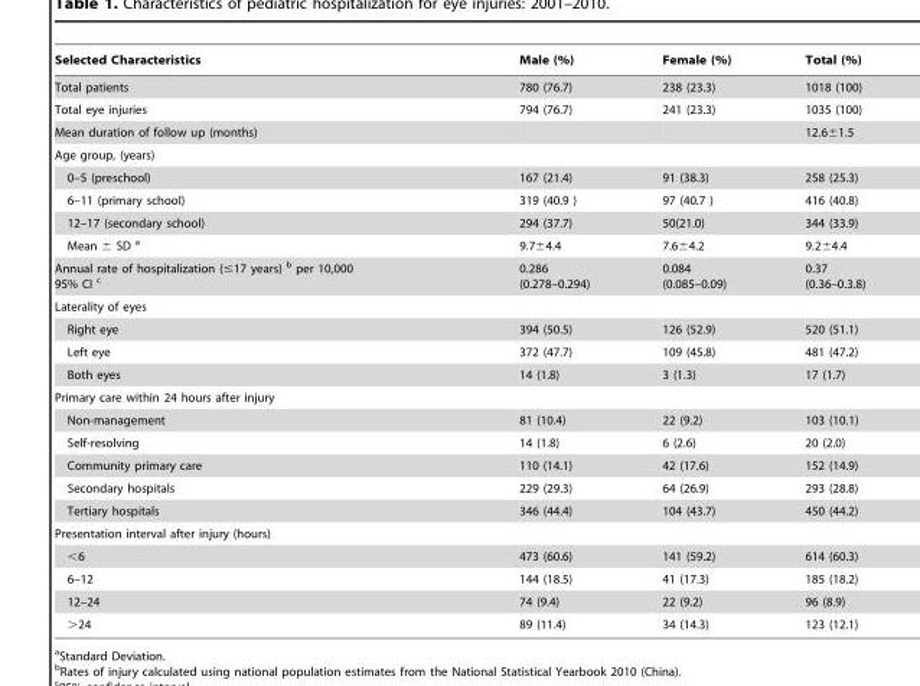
<table><thead><tr><td>Selected Characteristics</td><td>Male (%)</td><td>Female (%)</td><td>Total (%)</td></tr></thead><tbody><tr><td>Total patients</td><td>780 (76.7)</td><td>238 (23.3)</td><td>1018 (100)</td></tr><tr><td>Total eye injuries</td><td>794 (76.7)</td><td>241 (23.3)</td><td>1035 (100)</td></tr><tr><td>Mean duration of follow up (months)</td><td></td><td></td><td>12.6±1.5</td></tr><tr><td colspan="4">Age group, (years)</td></tr><tr><td>0–5 (preschool)</td><td>167 (21.4)</td><td>91 (38.3)</td><td>258 (25.3)</td></tr><tr><td>6–11 (primary school)</td><td>319 (40.9 )</td><td>97 (40.7 )</td><td>416 (40.8)</td></tr><tr><td>12–17 (secondary school)</td><td>294 (37.7)</td><td>50(21.0)</td><td>344 (33.9)</td></tr><tr><td>Mean ± SD a</td><td>9.7±4.4</td><td>7.6±4.2</td><td>9.2±4.4</td></tr><tr><td>Annual rate of hospitalization (≤17 years) b per 10,000 95% CI c</td><td>0.286 (0.278–0.294)</td><td>0.084 (0.085–0.09)</td><td>0.37 (0.36–0.3.8)</td></tr><tr><td colspan="4">Laterality of eyes</td></tr><tr><td>Right eye</td><td>394 (50.5)</td><td>126 (52.9)</td><td>520 (51.1)</td></tr><tr><td>Left eye</td><td>372 (47.7)</td><td>109 (45.8)</td><td>481 (47.2)</td></tr><tr><td>Both eyes</td><td>14 (1.8)</td><td>3 (1.3)</td><td>17 (1.7)</td></tr><tr><td colspan="4">Primary care within 24 hours after injury</td></tr><tr><td>Non-management</td><td>81 (10.4)</td><td>22 (9.2)</td><td>103 (10.1)</td></tr><tr><td>Self-resolving</td><td>14 (1.8)</td><td>6 (2.6)</td><td>20 (2.0)</td></tr><tr><td>Community primary care</td><td>110 (14.1)</td><td>42 (17.6)</td><td>152 (14.9)</td></tr><tr><td>Secondary hospitals</td><td>229 (29.3)</td><td>64 (26.9)</td><td>293 (28.8)</td></tr><tr><td>Tertiary hospitals</td><td>346 (44.4)</td><td>104 (43.7)</td><td>450 (44.2)</td></tr><tr><td colspan="4">Presentation interval after injury (hours)</td></tr><tr><td>&lt;6</td><td>473 (60.6)</td><td>141 (59.2)</td><td>614 (60.3)</td></tr><tr><td>6–12</td><td>144 (18.5)</td><td>41 (17.3)</td><td>185 (18.2)</td></tr><tr><td>12–24</td><td>74 (9.4)</td><td>22 (9.2)</td><td>96 (8.9)</td></tr><tr><td>&gt;24</td><td>89 (11.4)</td><td>34 (14.3)</td><td>123 (12.1)</td></tr></tbody></table>